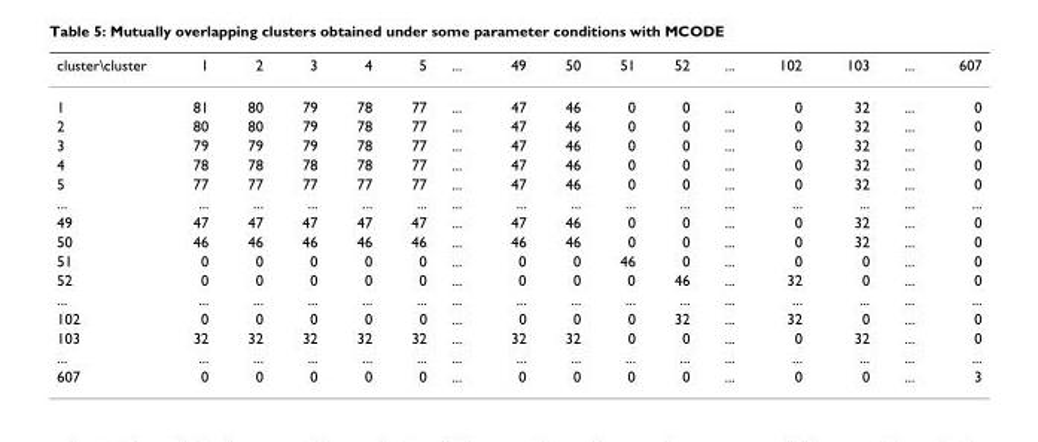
<table><thead><tr><td>cluster\cluster</td><td>1</td><td>2</td><td>3</td><td>4</td><td>5</td><td>...</td><td>49</td><td>50</td><td>51</td><td>52</td><td>...</td><td>102</td><td>103</td><td>...</td><td>607</td></tr></thead><tbody><tr><td>1</td><td>81</td><td>80</td><td>79</td><td>78</td><td>77</td><td>...</td><td>47</td><td>46</td><td>0</td><td>0</td><td>...</td><td>0</td><td>32</td><td>...</td><td>0</td></tr><tr><td>2</td><td>80</td><td>80</td><td>79</td><td>78</td><td>77</td><td>...</td><td>47</td><td>46</td><td>0</td><td>0</td><td>...</td><td>0</td><td>32</td><td>...</td><td>0</td></tr><tr><td>3</td><td>79</td><td>79</td><td>79</td><td>78</td><td>77</td><td>...</td><td>47</td><td>46</td><td>0</td><td>0</td><td>...</td><td>0</td><td>32</td><td>...</td><td>0</td></tr><tr><td>4</td><td>78</td><td>78</td><td>78</td><td>78</td><td>77</td><td>...</td><td>47</td><td>46</td><td>0</td><td>0</td><td>...</td><td>0</td><td>32</td><td>...</td><td>0</td></tr><tr><td>5</td><td>77</td><td>77</td><td>77</td><td>77</td><td>77</td><td>...</td><td>47</td><td>46</td><td>0</td><td>0</td><td>...</td><td>0</td><td>32</td><td>...</td><td>0</td></tr><tr><td>...</td><td>...</td><td>...</td><td>...</td><td>...</td><td>...</td><td>...</td><td>...</td><td>...</td><td>...</td><td>...</td><td>...</td><td>...</td><td>...</td><td>...</td><td>...</td></tr><tr><td>49</td><td>47</td><td>47</td><td>47</td><td>47</td><td>47</td><td>...</td><td>47</td><td>46</td><td>0</td><td>0</td><td>...</td><td>0</td><td>32</td><td>...</td><td>0</td></tr><tr><td>50</td><td>46</td><td>46</td><td>46</td><td>46</td><td>46</td><td>...</td><td>46</td><td>46</td><td>0</td><td>0</td><td>...</td><td>0</td><td>32</td><td>...</td><td>0</td></tr><tr><td>51</td><td>0</td><td>0</td><td>0</td><td>0</td><td>0</td><td>...</td><td>0</td><td>0</td><td>46</td><td>0</td><td>...</td><td>0</td><td>0</td><td>...</td><td>0</td></tr><tr><td>52</td><td>0</td><td>0</td><td>0</td><td>0</td><td>0</td><td>...</td><td>0</td><td>0</td><td>0</td><td>46</td><td>...</td><td>32</td><td>0</td><td>...</td><td>0</td></tr><tr><td>...</td><td>...</td><td>...</td><td>...</td><td>...</td><td>...</td><td>...</td><td>...</td><td>...</td><td>...</td><td>...</td><td>...</td><td>...</td><td>...</td><td>...</td><td>...</td></tr><tr><td>102</td><td>0</td><td>0</td><td>0</td><td>0</td><td>0</td><td>...</td><td>0</td><td>0</td><td>0</td><td>32</td><td>...</td><td>32</td><td>0</td><td>...</td><td>0</td></tr><tr><td>103</td><td>32</td><td>32</td><td>32</td><td>32</td><td>32</td><td>...</td><td>32</td><td>32</td><td>0</td><td>0</td><td>...</td><td>0</td><td>32</td><td>...</td><td>0</td></tr><tr><td>...</td><td>...</td><td>...</td><td>...</td><td>...</td><td>...</td><td>...</td><td>...</td><td>...</td><td>...</td><td>...</td><td>...</td><td>...</td><td>...</td><td>...</td><td>...</td></tr><tr><td>607</td><td>0</td><td>0</td><td>0</td><td>0</td><td>0</td><td>...</td><td>0</td><td>0</td><td>0</td><td>0</td><td>...</td><td>0</td><td>0</td><td>...</td><td>3</td></tr></tbody></table>